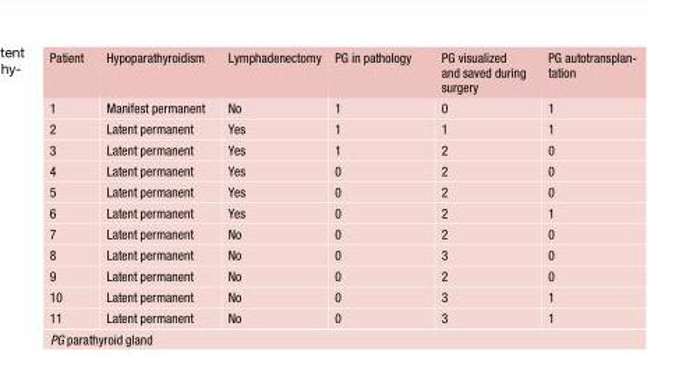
<table><thead><tr><td>Patient</td><td>Hypoparathyroidism</td><td>Lymphadenectomy</td><td>PG in pathology</td><td>PG visualized and saved during surgery</td><td>PG autotransplan- tation</td></tr></thead><tbody><tr><td>1</td><td>Manifest permanent</td><td>No</td><td>1</td><td>0</td><td>1</td></tr><tr><td>2</td><td>Latent permanent</td><td>Yes</td><td>1</td><td>1</td><td>1</td></tr><tr><td>3</td><td>Latent permanent</td><td>Yes</td><td>1</td><td>2</td><td>0</td></tr><tr><td>4</td><td>Latent permanent</td><td>Yes</td><td>0</td><td>2</td><td>0</td></tr><tr><td>5</td><td>Latent permanent</td><td>Yes</td><td>0</td><td>2</td><td>0</td></tr><tr><td>6</td><td>Latent permanent</td><td>Yes</td><td>0</td><td>2</td><td>1</td></tr><tr><td>7</td><td>Latent permanent</td><td>No</td><td>0</td><td>2</td><td>0</td></tr><tr><td>8</td><td>Latent permanent</td><td>No</td><td>0</td><td>3</td><td>0</td></tr><tr><td>9</td><td>Latent permanent</td><td>No</td><td>0</td><td>2</td><td>0</td></tr><tr><td>10</td><td>Latent permanent</td><td>No</td><td>0</td><td>3</td><td>1</td></tr><tr><td>11</td><td>Latent permanent</td><td>No</td><td>0</td><td>3</td><td>1</td></tr></tbody></table>